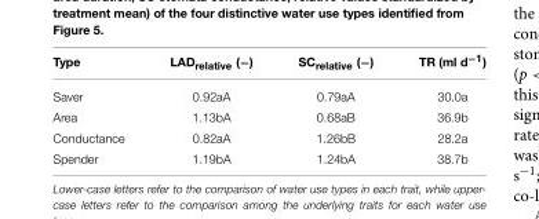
<table><thead><tr><td>Type</td><td>LAD<sub>relative</sub> (−)</td><td>SC<sub>relative</sub> (−)</td><td>TR (ml d<sup>−1</sup>)</td></tr></thead><tbody><tr><td>Saver</td><td>0.92aA</td><td>0.79aA</td><td>30.0a</td></tr><tr><td>Area</td><td>1.13bA</td><td>0.68aB</td><td>36.9b</td></tr><tr><td>Conductance</td><td>0.82aA</td><td>1.26bB</td><td>28.2a</td></tr><tr><td>Spender</td><td>1.19bA</td><td>1.24bA</td><td>38.7b</td></tr></tbody></table>